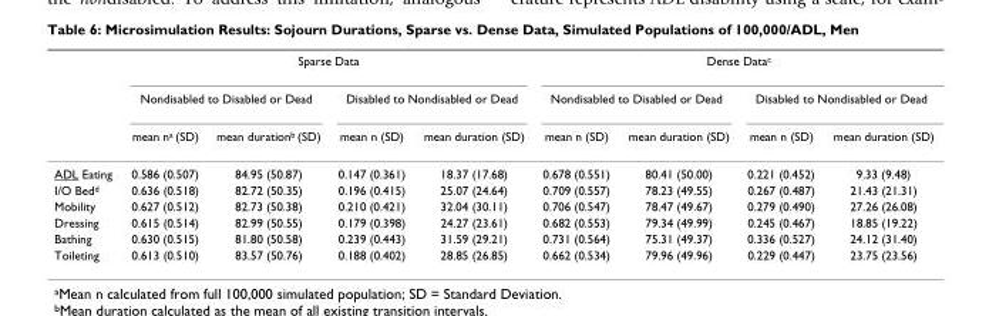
<table><thead><tr><td rowspan="3"></td><td colspan="4">Sparse Data</td><td colspan="4">Dense Data<sup>c</sup></td></tr><tr><td colspan="2">Nondisabled to Disabled or Dead</td><td colspan="2">Disabled to Nondisabled or Dead</td><td colspan="2">Nondisabled to Disabled or Dead</td><td colspan="2">Disabled to Nondisabled or Dead</td></tr><tr><td>mean n<sup>a</sup> (SD)</td><td>mean duration<sup>b</sup> (SD)</td><td>mean n (SD)</td><td>mean duration (SD)</td><td>mean n (SD)</td><td>mean duration (SD)</td><td>mean n (SD)</td><td>mean duration (SD)</td></tr></thead><tbody><tr><td>ADL Eating</td><td>0.586 (0.507)</td><td>84.95 (50.87)</td><td>0.147 (0.361)</td><td>18.37 (17.68)</td><td>0.678 (0.551)</td><td>80.41 (50.00)</td><td>0.221 (0.452)</td><td>9.33 (9.48)</td></tr><tr><td>I/O Bed<sup>d</sup></td><td>0.636 (0.518)</td><td>82.72 (50.35)</td><td>0.196 (0.415)</td><td>25.07 (24.64)</td><td>0.709 (0.557)</td><td>78.23 (49.55)</td><td>0.267 (0.487)</td><td>21.43 (21.31)</td></tr><tr><td>Mobility</td><td>0.627 (0.512)</td><td>82.73 (50.38)</td><td>0.210 (0.421)</td><td>32.04 (30.11)</td><td>0.706 (0.547)</td><td>78.47 (49.67)</td><td>0.279 (0.490)</td><td>27.26 (26.08)</td></tr><tr><td>Dressing</td><td>0.615 (0.514)</td><td>82.99 (50.55)</td><td>0.179 (0.398)</td><td>24.27 (23.61)</td><td>0.682 (0.553)</td><td>79.34 (49.99)</td><td>0.245 (0.467)</td><td>18.85 (19.22)</td></tr><tr><td>Bathing</td><td>0.630 (0.515)</td><td>81.80 (50.58)</td><td>0.239 (0.443)</td><td>31.59 (29.21)</td><td>0.731 (0.564)</td><td>75.31 (49.37)</td><td>0.336 (0.527)</td><td>24.12 (31.40)</td></tr><tr><td>Toileting</td><td>0.613 (0.510)</td><td>83.57 (50.76)</td><td>0.188 (0.402)</td><td>28.85 (26.85)</td><td>0.662 (0.534)</td><td>79.96 (49.96)</td><td>0.229 (0.447)</td><td>23.75 (23.56)</td></tr></tbody></table>